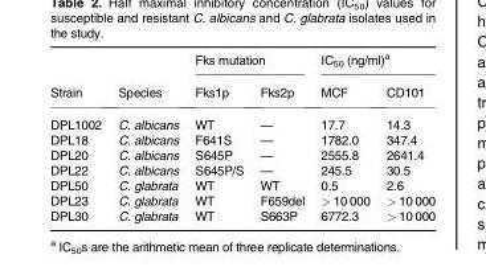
<table><thead><tr><td rowspan="2">Strain</td><td rowspan="2">Species</td><td colspan="2">Fks mutation</td><td colspan="2">IC<sub>50</sub> (ng/ml)<sup>a</sup></td></tr><tr><td>Fks1p</td><td>Fks2p</td><td>MCF</td><td>CD101</td></tr></thead><tbody><tr><td>DPL1002</td><td>C. albicans</td><td>WT</td><td>—</td><td>17.7</td><td>14.3</td></tr><tr><td>DPL18</td><td>C. albicans</td><td>F641S</td><td>—</td><td>1782.0</td><td>347.4</td></tr><tr><td>DPL20</td><td>C. albicans</td><td>S645P</td><td>—</td><td>2555.8</td><td>2641.4</td></tr><tr><td>DPL22</td><td>C. albicans</td><td>S645P/S</td><td>—</td><td>245.5</td><td>30.5</td></tr><tr><td>DPL50</td><td>C. glabrata</td><td>WT</td><td>WT</td><td>0.5</td><td>2.6</td></tr><tr><td>DPL23</td><td>C. glabrata</td><td>WT</td><td>F659del</td><td>&gt; 10 000</td><td>&gt; 10 000</td></tr><tr><td>DPL30</td><td>C. glabrata</td><td>WT</td><td>S663P</td><td>6772.3</td><td>&gt; 10 000</td></tr></tbody></table>